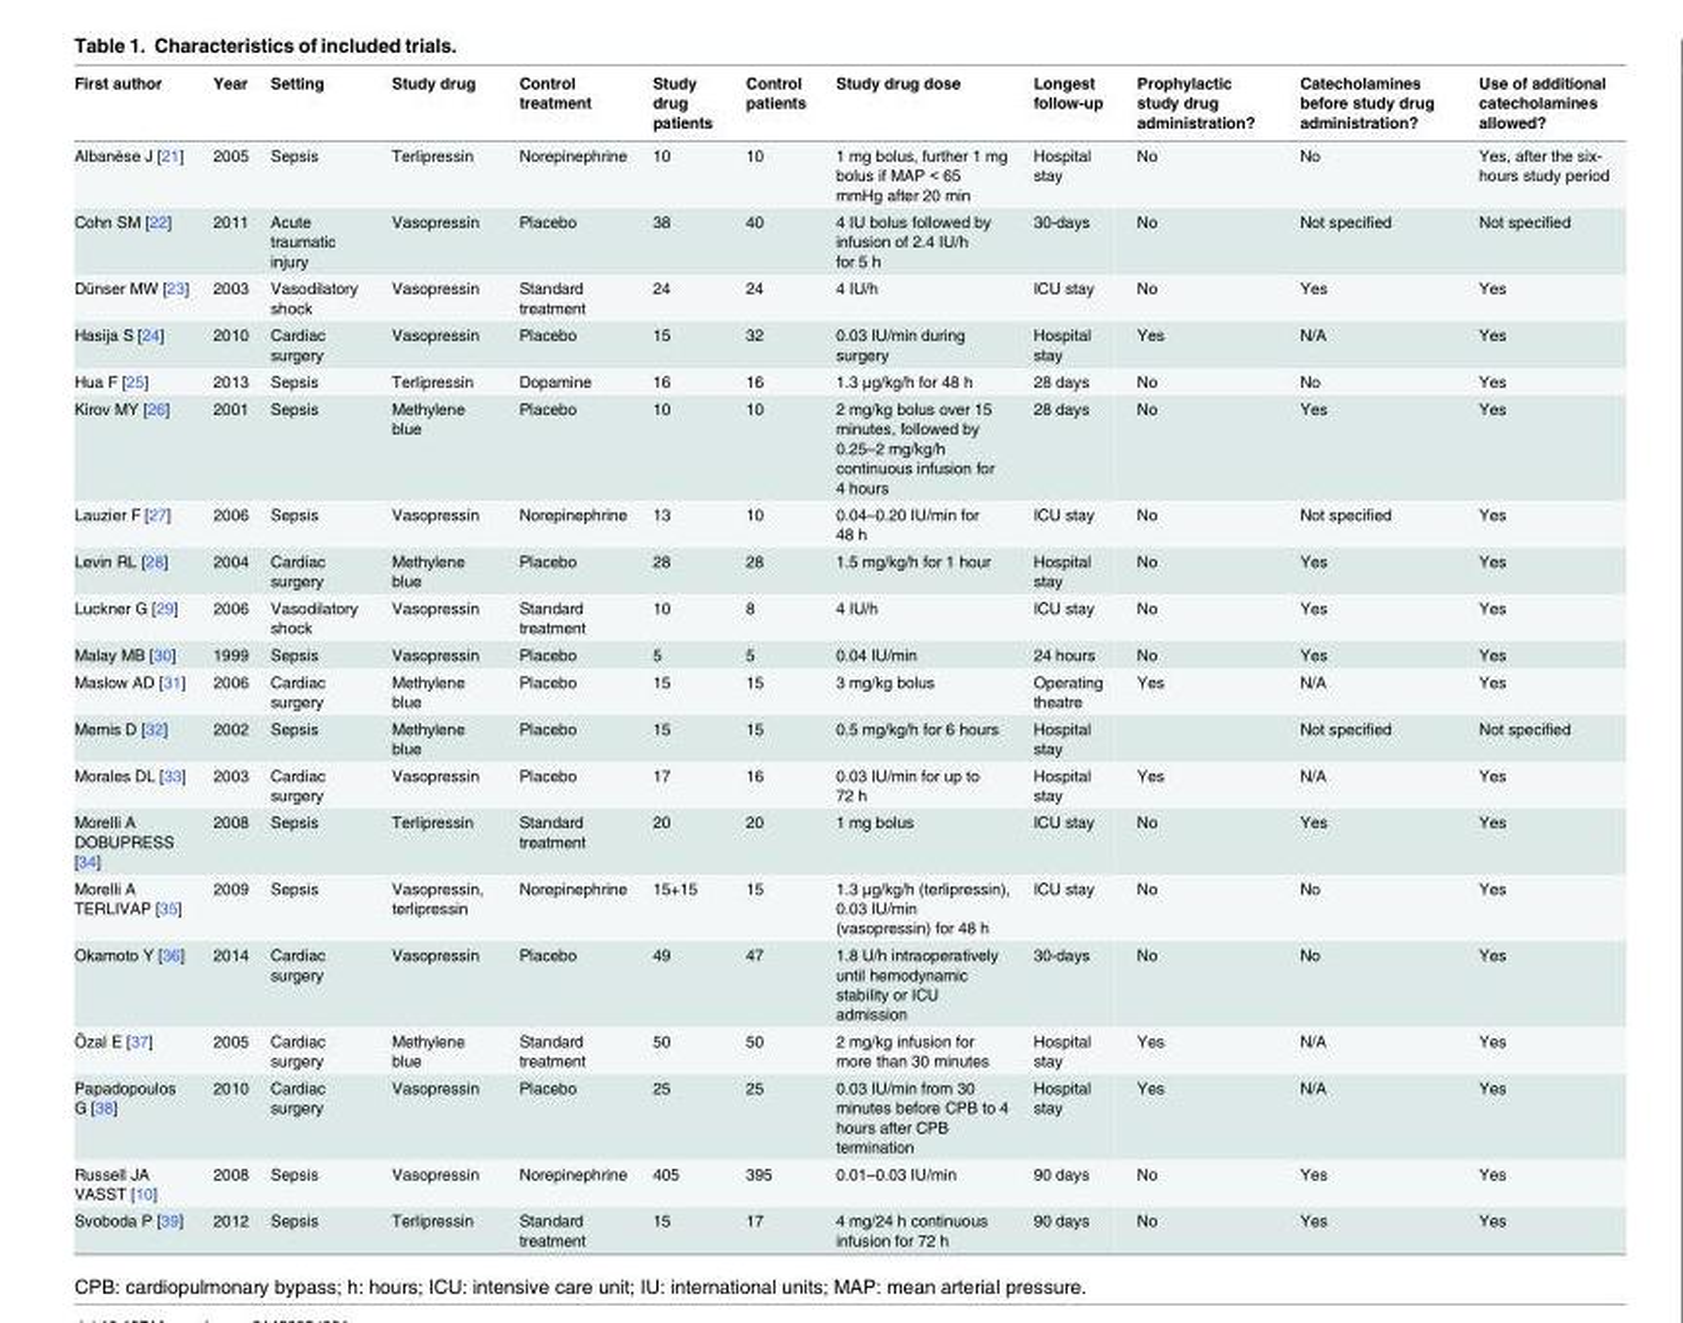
<table><thead><tr><td>First author</td><td>Year</td><td>Setting</td><td>Study drug</td><td>Control treatment</td><td>Study drug patients</td><td>Control patients</td><td>Study drug dose</td><td>Longest follow-up</td><td>Prophylactic study drug administration?</td><td>Catecholamines before study drug administration?</td><td>Use of additional catecholamines allowed?</td></tr></thead><tbody><tr><td>Albanèse J [21]</td><td>2005</td><td>Sepsis</td><td>Terlipressin</td><td>Norepinephrine</td><td>10</td><td>10</td><td>1 mg bolus, further 1 mg bolus if MAP &lt; 65 mmHg after 20 min</td><td>Hospital stay</td><td>No</td><td>No</td><td>Yes, after the six- hours study period</td></tr><tr><td>Cohn SM [22]</td><td>2011</td><td>Acute traumatic injury</td><td>Vasopressin</td><td>Placebo</td><td>38</td><td>40</td><td>4 IU bolus followed by infusion of 2.4 IU/h for 5 h</td><td>30-days</td><td>No</td><td>Not specified</td><td>Not specified</td></tr><tr><td>Dünser MW [23]</td><td>2003</td><td>Vasodilatory shock</td><td>Vasopressin</td><td>Standard treatment</td><td>24</td><td>24</td><td>4 IU/h</td><td>ICU stay</td><td>No</td><td>Yes</td><td>Yes</td></tr><tr><td>Hasija S [24]</td><td>2010</td><td>Cardiac surgery</td><td>Vasopressin</td><td>Placebo</td><td>15</td><td>32</td><td>0.03 IU/min during surgery</td><td>Hospital stay</td><td>Yes</td><td>N/A</td><td>Yes</td></tr><tr><td>Hua F [25]</td><td>2013</td><td>Sepsis</td><td>Terlipressin</td><td>Dopamine</td><td>16</td><td>16</td><td>1.3 μg/kg/h for 48 h</td><td>28 days</td><td>No</td><td>No</td><td>Yes</td></tr><tr><td>Kirov MY [26]</td><td>2001</td><td>Sepsis</td><td>Methylene blue</td><td>Placebo</td><td>10</td><td>10</td><td>2 mg/kg bolus over 15 minutes, followed by 0.25–2 mg/kg/h continuous infusion for 4 hours</td><td>28 days</td><td>No</td><td>Yes</td><td>Yes</td></tr><tr><td>Lauzier F [27]</td><td>2006</td><td>Sepsis</td><td>Vasopressin</td><td>Norepinephrine</td><td>13</td><td>10</td><td>0.04–0.20 IU/min for 48 h</td><td>ICU stay</td><td>No</td><td>Not specified</td><td>Yes</td></tr><tr><td>Levin RL [28]</td><td>2004</td><td>Cardiac surgery</td><td>Methylene blue</td><td>Placebo</td><td>28</td><td>28</td><td>1.5 mg/kg/h for 1 hour</td><td>Hospital stay</td><td>No</td><td>Yes</td><td>Yes</td></tr><tr><td>Luckner G [29]</td><td>2006</td><td>Vasodilatory shock</td><td>Vasopressin</td><td>Standard treatment</td><td>10</td><td>8</td><td>4 IU/h</td><td>ICU stay</td><td>No</td><td>Yes</td><td>Yes</td></tr><tr><td>Malay MB [30]</td><td>1999</td><td>Sepsis</td><td>Vasopressin</td><td>Placebo</td><td>5</td><td>5</td><td>0.04 IU/min</td><td>24 hours</td><td>No</td><td>Yes</td><td>Yes</td></tr><tr><td>Maslow AD [31]</td><td>2006</td><td>Cardiac surgery</td><td>Methylene blue</td><td>Placebo</td><td>15</td><td>15</td><td>3 mg/kg bolus</td><td>Operating theatre</td><td>Yes</td><td>N/A</td><td>Yes</td></tr><tr><td>Memis D [32]</td><td>2002</td><td>Sepsis</td><td>Methylene blue</td><td>Placebo</td><td>15</td><td>15</td><td>0.5 mg/kg/h for 6 hours</td><td>Hospital stay</td><td></td><td>Not specified</td><td>Not specified</td></tr><tr><td>Morales DL [33]</td><td>2003</td><td>Cardiac surgery</td><td>Vasopressin</td><td>Placebo</td><td>17</td><td>16</td><td>0.03 IU/min for up to 72 h</td><td>Hospital stay</td><td>Yes</td><td>N/A</td><td>Yes</td></tr><tr><td>Morelli A DOBUPRESS [34]</td><td>2008</td><td>Sepsis</td><td>Terlipressin</td><td>Standard treatment</td><td>20</td><td>20</td><td>1 mg bolus</td><td>ICU stay</td><td>No</td><td>Yes</td><td>Yes</td></tr><tr><td>Morelli A TERLIVAP [35]</td><td>2009</td><td>Sepsis</td><td>Vasopressin, terlipressin</td><td>Norepinephrine</td><td>15+15</td><td>15</td><td>1.3 μg/kg/h (terlipressin), 0.03 IU/min (vasopressin) for 48 h</td><td>ICU stay</td><td>No</td><td>No</td><td>Yes</td></tr><tr><td>Okamoto Y [36]</td><td>2014</td><td>Cardiac surgery</td><td>Vasopressin</td><td>Placebo</td><td>49</td><td>47</td><td>1.8 U/h intraoperatively until hemodynamic stability or ICU admission</td><td>30-days</td><td>No</td><td>No</td><td>Yes</td></tr><tr><td>Özal E [37]</td><td>2005</td><td>Cardiac surgery</td><td>Methylene blue</td><td>Standard treatment</td><td>50</td><td>50</td><td>2 mg/kg infusion for more than 30 minutes</td><td>Hospital stay</td><td>Yes</td><td>N/A</td><td>Yes</td></tr><tr><td>Papadopoulos G [38]</td><td>2010</td><td>Cardiac surgery</td><td>Vasopressin</td><td>Placebo</td><td>25</td><td>25</td><td>0.03 IU/min from 30 minutes before CPB to 4 hours after CPB termination</td><td>Hospital stay</td><td>Yes</td><td>N/A</td><td>Yes</td></tr><tr><td>Russell JA VASST [10]</td><td>2008</td><td>Sepsis</td><td>Vasopressin</td><td>Norepinephrine</td><td>405</td><td>395</td><td>0.01–0.03 IU/min</td><td>90 days</td><td>No</td><td>Yes</td><td>Yes</td></tr><tr><td>Svoboda P [39]</td><td>2012</td><td>Sepsis</td><td>Terlipressin</td><td>Standard treatment</td><td>15</td><td>17</td><td>4 mg/24 h continuous infusion for 72 h</td><td>90 days</td><td>No</td><td>Yes</td><td>Yes</td></tr></tbody></table>